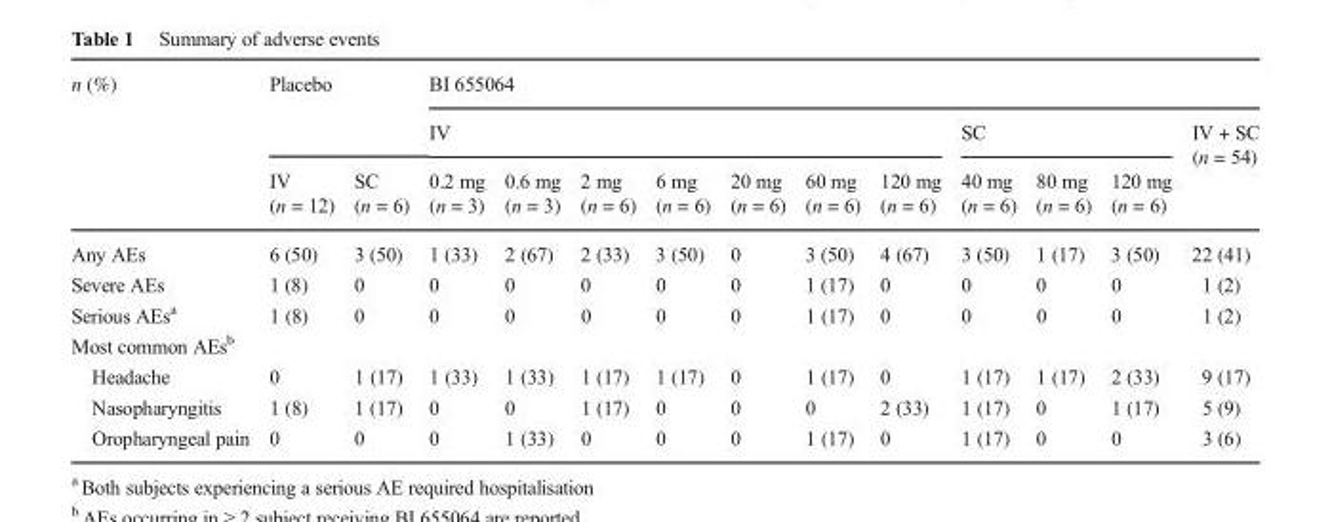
<table><thead><tr><td rowspan="3">n (%)</td><td rowspan="2" colspan="2">Placebo</td><td colspan="11">BI 655064</td></tr><tr><td colspan="7">IV</td><td colspan="3">SC</td><td rowspan="2">IV + SC (n = 54)</td></tr><tr><td>IV (n = 12)</td><td>SC (n = 6)</td><td>0.2 mg (n = 3)</td><td>0.6 mg (n = 3)</td><td>2 mg (n = 6)</td><td>6 mg (n = 6)</td><td>20 mg (n = 6)</td><td>60 mg (n = 6)</td><td>120 mg (n = 6)</td><td>40 mg (n = 6)</td><td>80 mg (n = 6)</td><td>120 mg (n = 6)</td></tr></thead><tbody><tr><td>Any AEs</td><td>6 (50)</td><td>3 (50)</td><td>1 (33)</td><td>2 (67)</td><td>2 (33)</td><td>3 (50)</td><td>0</td><td>3 (50)</td><td>4 (67)</td><td>3 (50)</td><td>1 (17)</td><td>3 (50)</td><td>22 (41)</td></tr><tr><td>Severe AEs</td><td>1 (8)</td><td>0</td><td>0</td><td>0</td><td>0</td><td>0</td><td>0</td><td>1 (17)</td><td>0</td><td>0</td><td>0</td><td>0</td><td>1 (2)</td></tr><tr><td>Serious AEs<sup>a</sup></td><td>1 (8)</td><td>0</td><td>0</td><td>0</td><td>0</td><td>0</td><td>0</td><td>1 (17)</td><td>0</td><td>0</td><td>0</td><td>0</td><td>1 (2)</td></tr><tr><td colspan="14">Most common AEs<sup>b</sup></td></tr><tr><td>Headache</td><td>0</td><td>1 (17)</td><td>1 (33)</td><td>1 (33)</td><td>1 (17)</td><td>1 (17)</td><td>0</td><td>1 (17)</td><td>0</td><td>1 (17)</td><td>1 (17)</td><td>2 (33)</td><td>9 (17)</td></tr><tr><td>Nasopharyngitis</td><td>1 (8)</td><td>1 (17)</td><td>0</td><td>0</td><td>1 (17)</td><td>0</td><td>0</td><td>0</td><td>2 (33)</td><td>1 (17)</td><td>0</td><td>1 (17)</td><td>5 (9)</td></tr><tr><td>Oropharyngeal pain</td><td>0</td><td>0</td><td>0</td><td>1 (33)</td><td>0</td><td>0</td><td>0</td><td>1 (17)</td><td>0</td><td>1 (17)</td><td>0</td><td>0</td><td>3 (6)</td></tr></tbody></table>